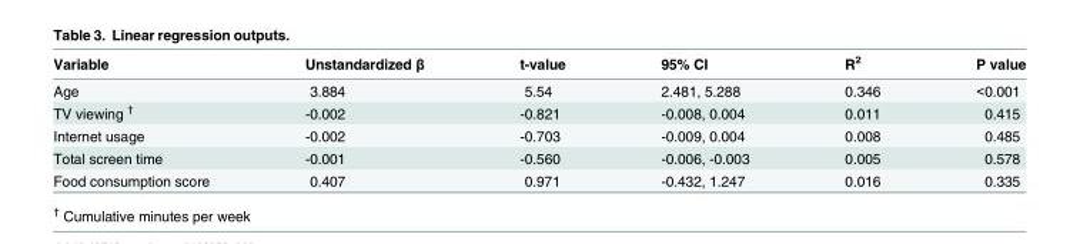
<table><thead><tr><td>Variable</td><td>Unstandardized β</td><td>t-value</td><td>95% CI</td><td>R<sup>2</sup></td><td>P value</td></tr></thead><tbody><tr><td>Age</td><td>3.884</td><td>5.54</td><td>2.481, 5.288</td><td>0.346</td><td>&lt;0.001</td></tr><tr><td>TV viewing <sup>†</sup></td><td>-0.002</td><td>-0.821</td><td>-0.008, 0.004</td><td>0.011</td><td>0.415</td></tr><tr><td>Internet usage</td><td>-0.002</td><td>-0.703</td><td>-0.009, 0.004</td><td>0.008</td><td>0.485</td></tr><tr><td>Total screen time</td><td>-0.001</td><td>-0.560</td><td>-0.006, -0.003</td><td>0.005</td><td>0.578</td></tr><tr><td>Food consumption score</td><td>0.407</td><td>0.971</td><td>-0.432, 1.247</td><td>0.016</td><td>0.335</td></tr></tbody></table>